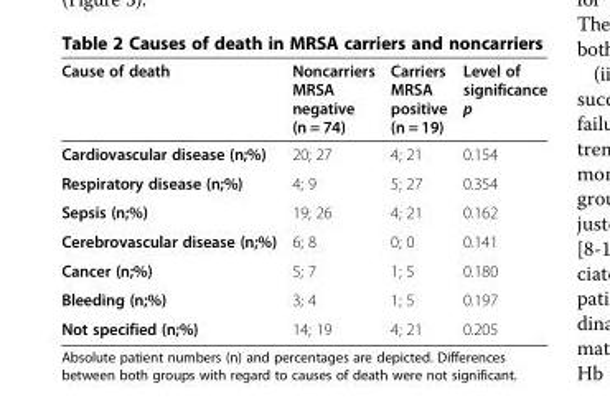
<table><thead><tr><td>Cause of death</td><td>Noncarriers MRSA negative (n = 74)</td><td>Carriers MRSA positive (n = 19)</td><td>Level of significance p</td></tr></thead><tbody><tr><td>Cardiovascular disease (n;%)</td><td>20; 27</td><td>4; 21</td><td>0.154</td></tr><tr><td>Respiratory disease (n;%)</td><td>4; 9</td><td>5; 27</td><td>0.354</td></tr><tr><td>Sepsis (n;%)</td><td>19; 26</td><td>4; 21</td><td>0.162</td></tr><tr><td>Cerebrovascular disease (n;%)</td><td>6; 8</td><td>0; 0</td><td>0.141</td></tr><tr><td>Cancer (n;%)</td><td>5; 7</td><td>1; 5</td><td>0.180</td></tr><tr><td>Bleeding (n;%)</td><td>3; 4</td><td>1; 5</td><td>0.197</td></tr><tr><td>Not specified (n;%)</td><td>14; 19</td><td>4; 21</td><td>0.205</td></tr></tbody></table>